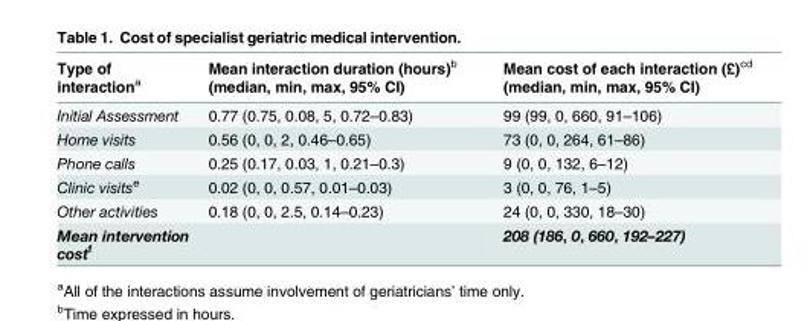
<table><thead><tr><td>Type of interaction<sup>a</sup></td><td>Mean interaction duration (hours)<sup>b</sup> (median, min, max, 95% CI)</td><td>Mean cost of each interaction (£)<sup>cd</sup> (median, min, max, 95% CI)</td></tr></thead><tbody><tr><td>Initial Assessment</td><td>0.77 (0.75, 0.08, 5, 0.72–0.83)</td><td>99 (99, 0, 660, 91–106)</td></tr><tr><td>Home visits</td><td>0.56 (0, 0, 2, 0.46–0.65)</td><td>73 (0, 0, 264, 61–86)</td></tr><tr><td>Phone calls</td><td>0.25 (0.17, 0.03, 1, 0.21–0.3)</td><td>9 (0, 0, 132, 6–12)</td></tr><tr><td>Clinic visits<sup>e</sup></td><td>0.02 (0, 0, 0.57, 0.01–0.03)</td><td>3 (0, 0, 76, 1–5)</td></tr><tr><td>Other activities</td><td>0.18 (0, 0, 2.5, 0.14–0.23)</td><td>24 (0, 0, 330, 18–30)</td></tr><tr><td>Mean intervention cost<sup>f</sup></td><td></td><td>208 (186, 0, 660, 192–227)</td></tr></tbody></table>